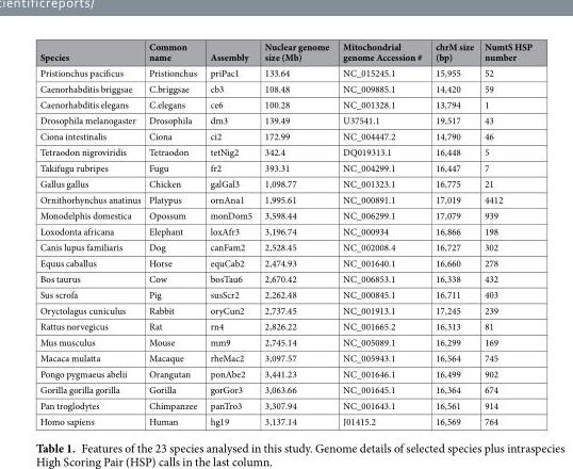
<table><thead><tr><td>Species</td><td>Common name</td><td>Assembly</td><td>Nuclear genome size (Mb)</td><td>Mitochondrial genome Accession #</td><td>chrM size (bp)</td><td>NumtS HSP number</td></tr></thead><tbody><tr><td>Pristionchus pacificus</td><td>Pristionchus</td><td>priPac1</td><td>133.64</td><td>NC_015245.1</td><td>15,955</td><td>52</td></tr><tr><td>Caenorhabditis briggsae</td><td>C.briggsae</td><td>cb3</td><td>108.48</td><td>NC_009885.1</td><td>14,420</td><td>59</td></tr><tr><td>Caenorhabditis elegans</td><td>C.elegans</td><td>ce6</td><td>100.28</td><td>NC_001328.1</td><td>13,794</td><td>1</td></tr><tr><td>Drosophila melanogaster</td><td>Drosophila</td><td>dm3</td><td>139.49</td><td>U37541.1</td><td>19,517</td><td>43</td></tr><tr><td>Ciona intestinalis</td><td>Ciona</td><td>ci2</td><td>172.99</td><td>NC_004447.2</td><td>14,790</td><td>46</td></tr><tr><td>Tetraodon nigroviridis</td><td>Tetraodon</td><td>tetNig2</td><td>342.4</td><td>DQ019313.1</td><td>16,448</td><td>5</td></tr><tr><td>Takifugu rubripes</td><td>Fugu</td><td>fr2</td><td>393.31</td><td>NC_004299.1</td><td>16,447</td><td>7</td></tr><tr><td>Gallus gallus</td><td>Chicken</td><td>galGal3</td><td>1,098.77</td><td>NC_001323.1</td><td>16,775</td><td>21</td></tr><tr><td>Ornithorhynchus anatinus</td><td>Platypus</td><td>ornAna1</td><td>1,995.61</td><td>NC_000891.1</td><td>17,019</td><td>4412</td></tr><tr><td>Monodelphis domestica</td><td>Opossum</td><td>monDom5</td><td>3,598.44</td><td>NC_006299.1</td><td>17,079</td><td>939</td></tr><tr><td>Loxodonta africana</td><td>Elephant</td><td>loxAfr3</td><td>3,196.74</td><td>NC_000934</td><td>16,866</td><td>198</td></tr><tr><td>Canis lupus familiaris</td><td>Dog</td><td>canFam2</td><td>2,528.45</td><td>NC_002008.4</td><td>16,727</td><td>302</td></tr><tr><td>Equus caballus</td><td>Horse</td><td>equCab2</td><td>2,474.93</td><td>NC_001640.1</td><td>16,660</td><td>278</td></tr><tr><td>Bos taurus</td><td>Cow</td><td>bosTau6</td><td>2,670.42</td><td>NC_006853.1</td><td>16,338</td><td>432</td></tr><tr><td>Sus scrofa</td><td>Pig</td><td>susScr2</td><td>2,262.48</td><td>NC_000845.1</td><td>16,711</td><td>403</td></tr><tr><td>Oryctolagus cuniculus</td><td>Rabbit</td><td>oryCun2</td><td>2,737.45</td><td>NC_001913.1</td><td>17,245</td><td>239</td></tr><tr><td>Rattus norvegicus</td><td>Rat</td><td>rn4</td><td>2,826.22</td><td>NC_001665.2</td><td>16,313</td><td>81</td></tr><tr><td>Mus musculus</td><td>Mouse</td><td>mm9</td><td>2,745.14</td><td>NC_005089.1</td><td>16,299</td><td>169</td></tr><tr><td>Macaca mulatta</td><td>Macaque</td><td>rheMac2</td><td>3,097.57</td><td>NC_005943.1</td><td>16,564</td><td>745</td></tr><tr><td>Pongo pygmaeus abelii</td><td>Orangutan</td><td>ponAbe2</td><td>3,441.23</td><td>NC_001646.1</td><td>16,499</td><td>902</td></tr><tr><td>Gorilla gorilla gorilla</td><td>Gorilla</td><td>gorGor3</td><td>3,063.66</td><td>NC_001645.1</td><td>16,364</td><td>674</td></tr><tr><td>Pan troglodytes</td><td>Chimpanzee</td><td>panTro3</td><td>3,307.94</td><td>NC_001643.1</td><td>16,561</td><td>914</td></tr><tr><td>Homo sapiens</td><td>Human</td><td>hg19</td><td>3,137.14</td><td>J01415.2</td><td>16,569</td><td>764</td></tr></tbody></table>